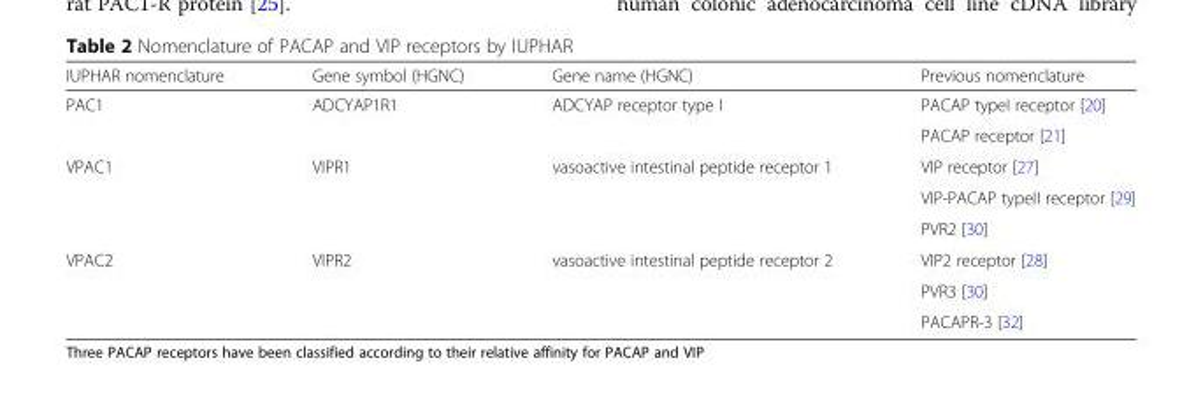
<table><thead><tr><td>IUPHAR nomenclature</td><td>Gene symbol (HGNC)</td><td>Gene name (HGNC)</td><td>Previous nomenclature</td></tr></thead><tbody><tr><td rowspan="2">PAC1</td><td rowspan="2">ADCYAP1R1</td><td rowspan="2">ADCYAP receptor type I</td><td>PACAP typeI receptor [20]</td></tr><tr><td>PACAP receptor [21]</td></tr><tr><td rowspan="3">VPAC1</td><td rowspan="3">VIPR1</td><td rowspan="3">vasoactive intestinal peptide receptor 1</td><td>VIP receptor [27]</td></tr><tr><td>VIP-PACAP typeII receptor [29]</td></tr><tr><td>PVR2 [30]</td></tr><tr><td rowspan="3">VPAC2</td><td rowspan="3">VIPR2</td><td rowspan="3">vasoactive intestinal peptide receptor 2</td><td>VIP2 receptor [28]</td></tr><tr><td>PVR3 [30]</td></tr><tr><td>PACAPR-3 [32]</td></tr></tbody></table>